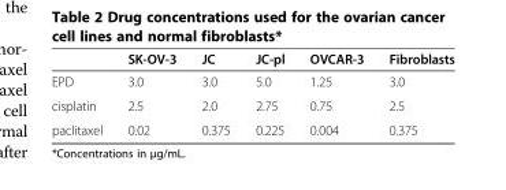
<table><thead><tr><td></td><td>SK-OV-3</td><td>JC</td><td>JC-pl</td><td>OVCAR-3</td><td>Fibroblasts</td></tr></thead><tbody><tr><td>EPD</td><td>3.0</td><td>3.0</td><td>5.0</td><td>1.25</td><td>3.0</td></tr><tr><td>cisplatin</td><td>2.5</td><td>2.0</td><td>2.75</td><td>0.75</td><td>2.5</td></tr><tr><td>paclitaxel</td><td>0.02</td><td>0.375</td><td>0.225</td><td>0.004</td><td>0.375</td></tr></tbody></table>